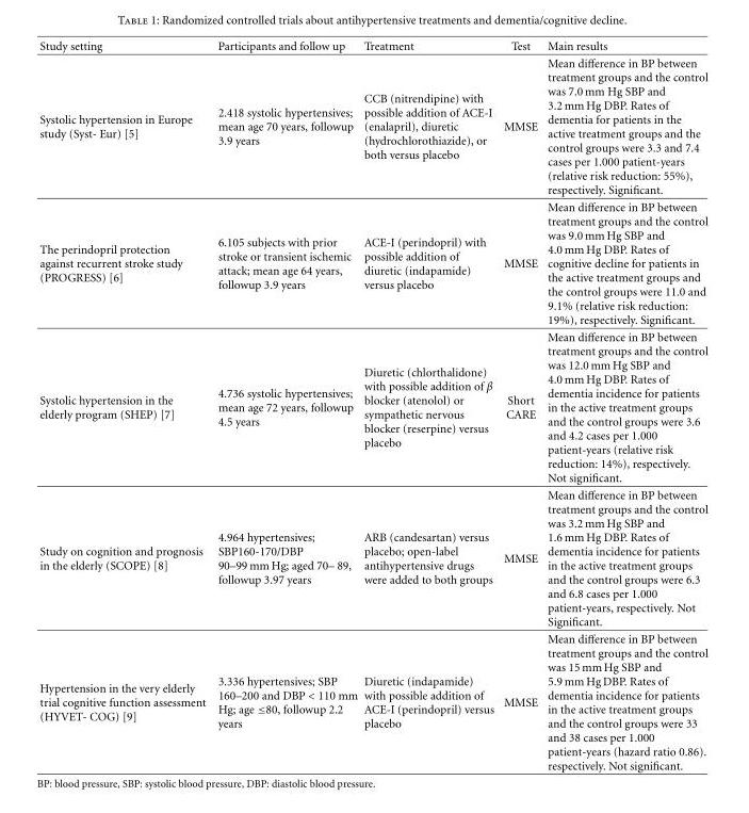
<table><thead><tr><td>Study setting</td><td>Participants and follow up</td><td>Treatment</td><td>Test</td><td>Main results</td></tr></thead><tbody><tr><td>Systolic hypertension in Europe study (Syst- Eur) [5]</td><td>2.418 systolic hypertensives; mean age 70 years, followup 3.9 years</td><td>CCB (nitrendipine) with possible addition of ACE-I (enalapril), diuretic (hydrochlorothiazide), or both versus placebo</td><td>MMSE</td><td>Mean difference in BP between treatment groups and the control was 7.0 mm Hg SBP and 3.2 mm Hg DBP. Rates of dementia for patients in the active treatment groups and the control groups were 3.3 and 7.4 cases per 1.000 patient-years (relative risk reduction: 55%), respectively. Significant.</td></tr><tr><td>The perindopril protection against recurrent stroke study (PROGRESS) [6]</td><td>6.105 subjects with prior stroke or transient ischemic attack; mean age 64 years, followup 3.9 years</td><td>ACE-I (perindopril) with possible addition of diuretic (indapamide) versus placebo</td><td>MMSE</td><td>Mean difference in BP between treatment groups and the control was 9.0 mm Hg SBP and 4.0 mm Hg DBP. Rates of cognitive decline for patients in the active treatment groups and the control groups were 11.0 and 9.1% (relative risk reduction: 19%), respectively. Significant.</td></tr><tr><td>Systolic hypertension in the elderly program (SHEP) [7]</td><td>4.736 systolic hypertensives; mean age 72 years, followup 4.5 years</td><td>Diuretic (chlorthalidone) with possible addition of β blocker (atenolol) or sympathetic nervous blocker (reserpine) versus placebo</td><td>Short CARE</td><td>Mean difference in BP between treatment groups and the control was 12.0 mm Hg SBP and 4.0 mm Hg DBP. Rates of dementia incidence for patients in the active treatment groups and the control groups were 3.6 and 4.2 cases per 1.000 patient-years (relative risk reduction: 14%), respectively. Not significant.</td></tr><tr><td>Study on cognition and prognosis in the elderly (SCOPE) [8]</td><td>4.964 hypertensives; SBP160-170/DBP 90–99 mm Hg; aged 70– 89, followup 3.97 years</td><td>ARB (candesartan) versus placebo; open-label antihypertensive drugs were added to both groups</td><td>MMSE</td><td>Mean difference in BP between treatment groups and the control was 3.2 mm Hg SBP and 1.6 mm Hg DBP. Rates of dementia incidence for patients in the active treatment groups and the control groups were 6.3 and 6.8 cases per 1.000 patient-years, respectively. Not Significant.</td></tr><tr><td>Hypertension in the very elderly trial cognitive function assessment (HYVET- COG) [9]</td><td>3.336 hypertensives; SBP 160–200 and DBP &lt; 110 mm Hg; age ≤80, followup 2.2 years</td><td>Diuretic (indapamide) with possible addition of ACE-I (perindopril) versus placebo</td><td>MMSE</td><td>Mean difference in BP between treatment groups and the control was 15 mm Hg SBP and 5.9 mm Hg DBP. Rates of dementia incidence for patients in the active treatment groups and the control groups were 33 and 38 cases per 1.000 patient-years (hazard ratio 0.86). respectively. Not significant.</td></tr></tbody></table>